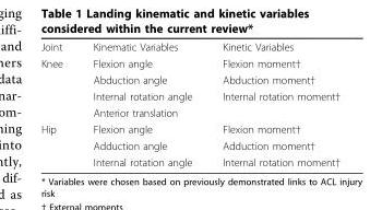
<table><tbody><tr><td>Joint</td><td>Kinematic Variables</td><td>Kinetic Variables</td></tr><tr><td rowspan="4">Knee</td><td>Flexion angle</td><td>Flexion moment†</td></tr><tr><td>Abduction angle</td><td>Abduction moment†</td></tr><tr><td>Internal rotation angle</td><td>Internal rotation moment†</td></tr><tr><td>Anterior translation</td><td></td></tr><tr><td rowspan="3">Hip</td><td>Flexion angle</td><td>Flexion moment†</td></tr><tr><td>Adduction angle</td><td>Adduction moment†</td></tr><tr><td>Internal rotation angle</td><td>Internal rotation moment†</td></tr></tbody></table>